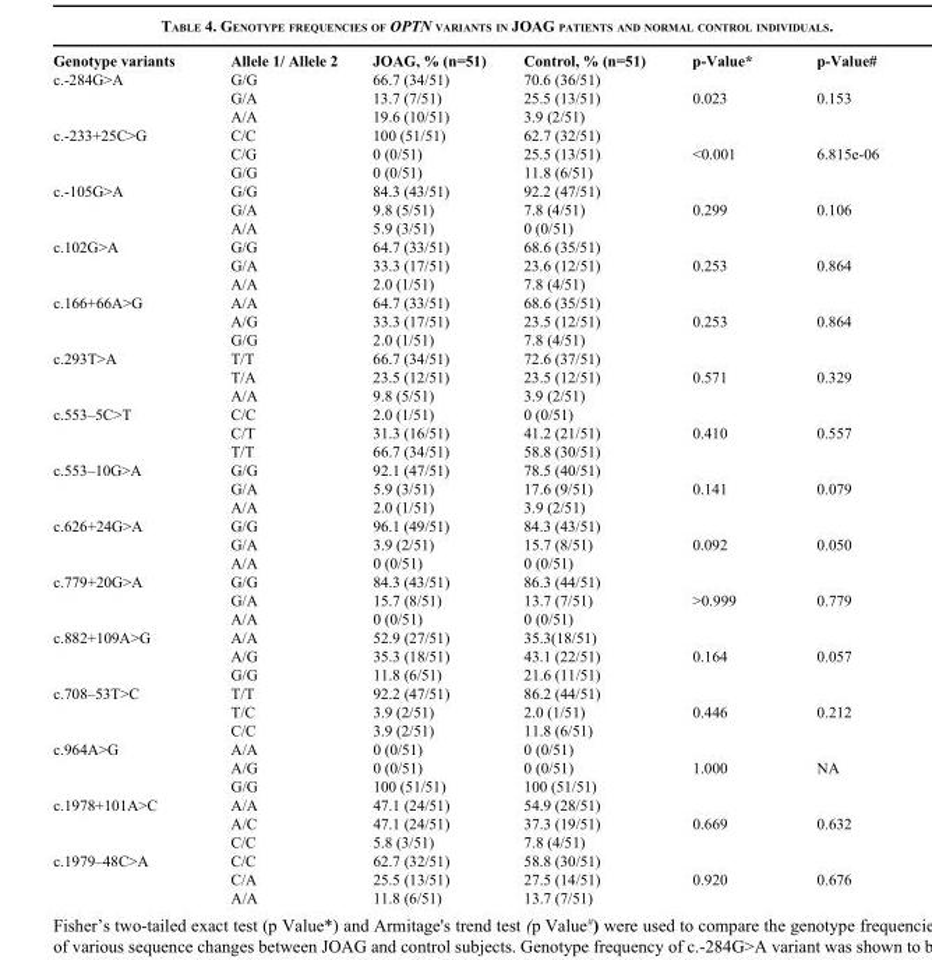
<table><tbody><tr><td>Genotype variants</td><td>Allele 1/ Allele 2</td><td>JOAG, % (n=51)</td><td>Control, % (n=51)</td><td>p-Value*</td><td>p-Value#</td></tr><tr><td rowspan="3">c.-284G&gt;A</td><td>G/G</td><td>66.7 (34/51)</td><td>70.6 (36/51)</td><td></td><td></td></tr><tr><td>G/A</td><td>13.7 (7/51)</td><td>25.5 (13/51)</td><td>0.023</td><td>0.153</td></tr><tr><td>A/A</td><td>19.6 (10/51)</td><td>3.9 (2/51)</td><td></td><td></td></tr><tr><td rowspan="3">c.-233+25C&gt;G</td><td>C/C</td><td>100 (51/51)</td><td>62.7 (32/51)</td><td></td><td></td></tr><tr><td>C/G</td><td>0 (0/51)</td><td>25.5 (13/51)</td><td>&lt;0.001</td><td>6.815e-06</td></tr><tr><td>G/G</td><td>0 (0/51)</td><td>11.8 (6/51)</td><td></td><td></td></tr><tr><td rowspan="3">c.-105G&gt;A</td><td>G/G</td><td>84.3 (43/51)</td><td>92.2 (47/51)</td><td></td><td></td></tr><tr><td>G/A</td><td>9.8 (5/51)</td><td>7.8 (4/51)</td><td>0.299</td><td>0.106</td></tr><tr><td>A/A</td><td>5.9 (3/51)</td><td>0 (0/51)</td><td></td><td></td></tr><tr><td rowspan="3">c.102G&gt;A</td><td>G/G</td><td>64.7 (33/51)</td><td>68.6 (35/51)</td><td></td><td></td></tr><tr><td>G/A</td><td>33.3 (17/51)</td><td>23.6 (12/51)</td><td>0.253</td><td>0.864</td></tr><tr><td>A/A</td><td>2.0 (1/51)</td><td>7.8 (4/51)</td><td></td><td></td></tr><tr><td rowspan="3">c.166+66A&gt;G</td><td>A/A</td><td>64.7 (33/51)</td><td>68.6 (35/51)</td><td></td><td></td></tr><tr><td>A/G</td><td>33.3 (17/51)</td><td>23.5 (12/51)</td><td>0.253</td><td>0.864</td></tr><tr><td>G/G</td><td>2.0 (1/51)</td><td>7.8 (4/51)</td><td></td><td></td></tr><tr><td rowspan="3">c.293T&gt;A</td><td>T/T</td><td>66.7 (34/51)</td><td>72.6 (37/51)</td><td></td><td></td></tr><tr><td>T/A</td><td>23.5 (12/51)</td><td>23.5 (12/51)</td><td>0.571</td><td>0.329</td></tr><tr><td>A/A</td><td>9.8 (5/51)</td><td>3.9 (2/51)</td><td></td><td></td></tr><tr><td rowspan="3">c.553–5C&gt;T</td><td>C/C</td><td>2.0 (1/51)</td><td>0 (0/51)</td><td></td><td></td></tr><tr><td>C/T</td><td>31.3 (16/51)</td><td>41.2 (21/51)</td><td>0.410</td><td>0.557</td></tr><tr><td>T/T</td><td>66.7 (34/51)</td><td>58.8 (30/51)</td><td></td><td></td></tr><tr><td rowspan="3">c.553–10G&gt;A</td><td>G/G</td><td>92.1 (47/51)</td><td>78.5 (40/51)</td><td></td><td></td></tr><tr><td>G/A</td><td>5.9 (3/51)</td><td>17.6 (9/51)</td><td>0.141</td><td>0.079</td></tr><tr><td>A/A</td><td>2.0 (1/51)</td><td>3.9 (2/51)</td><td></td><td></td></tr><tr><td rowspan="3">c.626+24G&gt;A</td><td>G/G</td><td>96.1 (49/51)</td><td>84.3 (43/51)</td><td></td><td></td></tr><tr><td>G/A</td><td>3.9 (2/51)</td><td>15.7 (8/51)</td><td>0.092</td><td>0.050</td></tr><tr><td>A/A</td><td>0 (0/51)</td><td>0 (0/51)</td><td></td><td></td></tr><tr><td rowspan="3">c.779+20G&gt;A</td><td>G/G</td><td>84.3 (43/51)</td><td>86.3 (44/51)</td><td></td><td></td></tr><tr><td>G/A</td><td>15.7 (8/51)</td><td>13.7 (7/51)</td><td>&gt;0.999</td><td>0.779</td></tr><tr><td>A/A</td><td>0 (0/51)</td><td>0 (0/51)</td><td></td><td></td></tr><tr><td rowspan="3">c.882+109A&gt;G</td><td>A/A</td><td>52.9 (27/51)</td><td>35.3(18/51)</td><td></td><td></td></tr><tr><td>A/G</td><td>35.3 (18/51)</td><td>43.1 (22/51)</td><td>0.164</td><td>0.057</td></tr><tr><td>G/G</td><td>11.8 (6/51)</td><td>21.6 (11/51)</td><td></td><td></td></tr><tr><td rowspan="3">c.708–53T&gt;C</td><td>T/T</td><td>92.2 (47/51)</td><td>86.2 (44/51)</td><td></td><td></td></tr><tr><td>T/C</td><td>3.9 (2/51)</td><td>2.0 (1/51)</td><td>0.446</td><td>0.212</td></tr><tr><td>C/C</td><td>3.9 (2/51)</td><td>11.8 (6/51)</td><td></td><td></td></tr><tr><td rowspan="3">c.964A&gt;G</td><td>A/A</td><td>0 (0/51)</td><td>0 (0/51)</td><td></td><td></td></tr><tr><td>A/G</td><td>0 (0/51)</td><td>0 (0/51)</td><td>1.000</td><td>NA</td></tr><tr><td>G/G</td><td>100 (51/51)</td><td>100 (51/51)</td><td></td><td></td></tr><tr><td rowspan="3">c.1978+101A&gt;C</td><td>A/A</td><td>47.1 (24/51)</td><td>54.9 (28/51)</td><td></td><td></td></tr><tr><td>A/C</td><td>47.1 (24/51)</td><td>37.3 (19/51)</td><td>0.669</td><td>0.632</td></tr><tr><td>C/C</td><td>5.8 (3/51)</td><td>7.8 (4/51)</td><td></td><td></td></tr><tr><td rowspan="3">c.1979–48C&gt;A</td><td>C/C</td><td>62.7 (32/51)</td><td>58.8 (30/51)</td><td></td><td></td></tr><tr><td>C/A</td><td>25.5 (13/51)</td><td>27.5 (14/51)</td><td>0.920</td><td>0.676</td></tr><tr><td>A/A</td><td>11.8 (6/51)</td><td>13.7 (7/51)</td><td></td><td></td></tr></tbody></table>